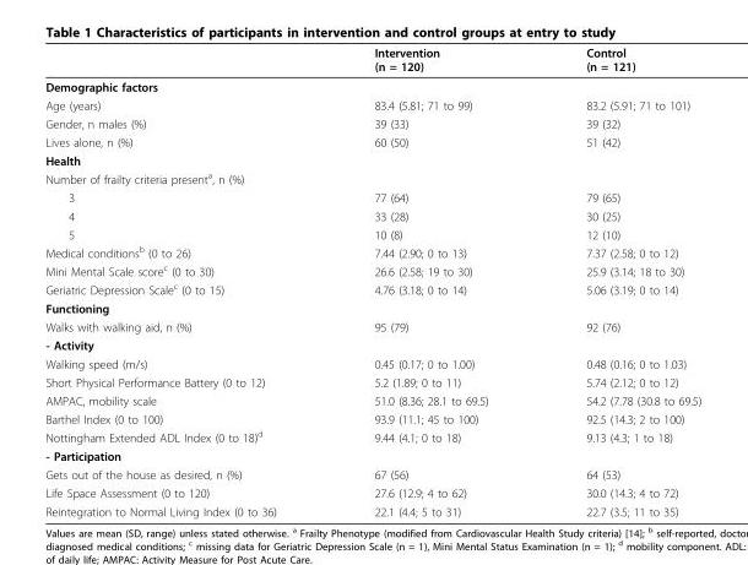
<table><thead><tr><td></td><td>Intervention (n = 120)</td><td>Control (n = 121)</td></tr></thead><tbody><tr><td colspan="3">Demographic factors</td></tr><tr><td>Age (years)</td><td>83.4 (5.81; 71 to 99)</td><td>83.2 (5.91; 71 to 101)</td></tr><tr><td>Gender, n males (%)</td><td>39 (33)</td><td>39 (32)</td></tr><tr><td>Lives alone, n (%)</td><td>60 (50)</td><td>51 (42)</td></tr><tr><td colspan="3">Health</td></tr><tr><td colspan="3">Number of frailty criteria present<sup>a</sup>, n (%)</td></tr><tr><td>3</td><td>77 (64)</td><td>79 (65)</td></tr><tr><td>4</td><td>33 (28)</td><td>30 (25)</td></tr><tr><td>5</td><td>10 (8)</td><td>12 (10)</td></tr><tr><td>Medical conditions<sup>b</sup> (0 to 26)</td><td>7.44 (2.90; 0 to 13)</td><td>7.37 (2.58; 0 to 12)</td></tr><tr><td>Mini Mental Scale score<sup>c</sup> (0 to 30)</td><td>26.6 (2.58; 19 to 30)</td><td>25.9 (3.14; 18 to 30)</td></tr><tr><td>Geriatric Depression Scale<sup>c</sup> (0 to 15)</td><td>4.76 (3.18; 0 to 14)</td><td>5.06 (3.19; 0 to 14)</td></tr><tr><td colspan="3">Functioning</td></tr><tr><td>Walks with walking aid, n (%)</td><td>95 (79)</td><td>92 (76)</td></tr><tr><td colspan="3">- Activity</td></tr><tr><td>Walking speed (m/s)</td><td>0.45 (0.17; 0 to 1.00)</td><td>0.48 (0.16; 0 to 1.03)</td></tr><tr><td>Short Physical Performance Battery (0 to 12)</td><td>5.2 (1.89; 0 to 11)</td><td>5.74 (2.12; 0 to 12)</td></tr><tr><td>AMPAC, mobility scale</td><td>51.0 (8.36; 28.1 to 69.5)</td><td>54.2 (7.78 (30.8 to 69.5)</td></tr><tr><td>Barthel Index (0 to 100)</td><td>93.9 (11.1; 45 to 100)</td><td>92.5 (14.3; 2 to 100)</td></tr><tr><td>Nottingham Extended ADL Index (0 to 18)<sup>d</sup></td><td>9.44 (4.1; 0 to 18)</td><td>9.13 (4.3; 1 to 18)</td></tr><tr><td colspan="3">- Participation</td></tr><tr><td>Gets out of the house as desired, n (%)</td><td>67 (56)</td><td>64 (53)</td></tr><tr><td>Life Space Assessment (0 to 120)</td><td>27.6 (12.9; 4 to 62)</td><td>30.0 (14.3; 4 to 72)</td></tr><tr><td>Reintegration to Normal Living Index (0 to 36)</td><td>22.1 (4.4; 5 to 31)</td><td>22.7 (3.5; 11 to 35)</td></tr></tbody></table>